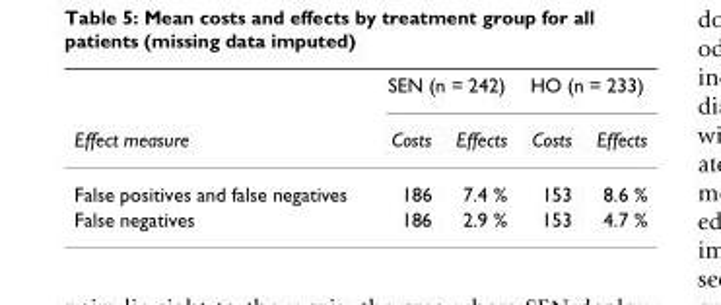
<table><thead><tr><td rowspan="2">Effect measure</td><td colspan="2">SEN (n = 242)</td><td colspan="2">HO (n = 233)</td></tr><tr><td>Costs</td><td>Effects</td><td>Costs</td><td>Effects</td></tr></thead><tbody><tr><td>False positives and false negatives</td><td>186</td><td>7.4 %</td><td>153</td><td>8.6 %</td></tr><tr><td>False negatives</td><td>186</td><td>2.9 %</td><td>153</td><td>4.7 %</td></tr></tbody></table>